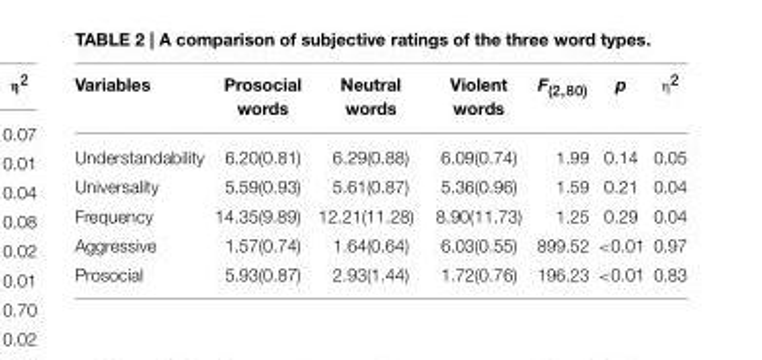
<table><thead><tr><td>Variables</td><td>Prosocial words</td><td>Neutral words</td><td>Violent words</td><td>F<sub>(2,80)</sub></td><td>p</td><td>η<sup>2</sup></td></tr></thead><tbody><tr><td>Understandability</td><td>6.20(0.81)</td><td>6.29(0.88)</td><td>6.09(0.74)</td><td>1.99</td><td>0.14</td><td>0.05</td></tr><tr><td>Universality</td><td>5.59(0.93)</td><td>5.61(0.87)</td><td>5.36(0.96)</td><td>1.59</td><td>0.21</td><td>0.04</td></tr><tr><td>Frequency</td><td>14.35(9.89)</td><td>12.21(11.28)</td><td>8.90(11.73)</td><td>1.25</td><td>0.29</td><td>0.04</td></tr><tr><td>Aggressive</td><td>1.57(0.74)</td><td>1.64(0.64)</td><td>6.03(0.55)</td><td>899.52</td><td>&lt;0.01</td><td>0.97</td></tr><tr><td>Prosocial</td><td>5.93(0.87)</td><td>2.93(1.44)</td><td>1.72(0.76)</td><td>196.23</td><td>&lt;0.01</td><td>0.83</td></tr></tbody></table>